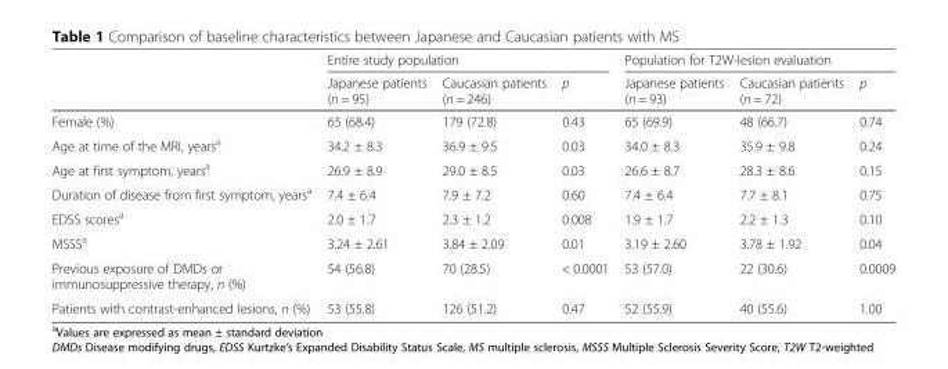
<table><thead><tr><td rowspan="2"></td><td colspan="3">Entire study population</td><td colspan="3">Population for T2W-lesion evaluation</td></tr><tr><td>Japanese patients (n = 95)</td><td>Caucasian patients (n = 246)</td><td>p</td><td>Japanese patients (n = 93)</td><td>Caucasian patients (n = 72)</td><td>p</td></tr></thead><tbody><tr><td>Female (%)</td><td>65 (68.4)</td><td>179 (72.8)</td><td>0.43</td><td>65 (69.9)</td><td>48 (66.7)</td><td>0.74</td></tr><tr><td>Age at time of the MRI, years<sup>a</sup></td><td>34.2 ± 8.3</td><td>36.9 ± 9.5</td><td>0.03</td><td>34.0 ± 8.3</td><td>35.9 ± 9.8</td><td>0.24</td></tr><tr><td>Age at first symptom, years<sup>a</sup></td><td>26.9 ± 8.9</td><td>29.0 ± 8.5</td><td>0.03</td><td>26.6 ± 8.7</td><td>28.3 ± 8.6</td><td>0.15</td></tr><tr><td>Duration of disease from first symptom, years<sup>a</sup></td><td>7.4 ± 6.4</td><td>7.9 ± 7.2</td><td>0.60</td><td>7.4 ± 6.4</td><td>7.7 ± 8.1</td><td>0.75</td></tr><tr><td>EDSS scores<sup>a</sup></td><td>2.0 ± 1.7</td><td>2.3 ± 1.2</td><td>0.008</td><td>1.9 ± 1.7</td><td>2.2 ± 1.3</td><td>0.10</td></tr><tr><td>MSSS<sup>a</sup></td><td>3.24 ± 2.61</td><td>3.84 ± 2.09</td><td>0.01</td><td>3.19 ± 2.60</td><td>3.78 ± 1.92</td><td>0.04</td></tr><tr><td>Previous exposure of DMDs or immunosuppressive therapy, n (%)</td><td>54 (56.8)</td><td>70 (28.5)</td><td>&lt; 0.0001</td><td>53 (57.0)</td><td>22 (30.6)</td><td>0.0009</td></tr><tr><td>Patients with contrast-enhanced lesions, n (%)</td><td>53 (55.8)</td><td>126 (51.2)</td><td>0.47</td><td>52 (55.9)</td><td>40 (55.6)</td><td>1.00</td></tr></tbody></table>